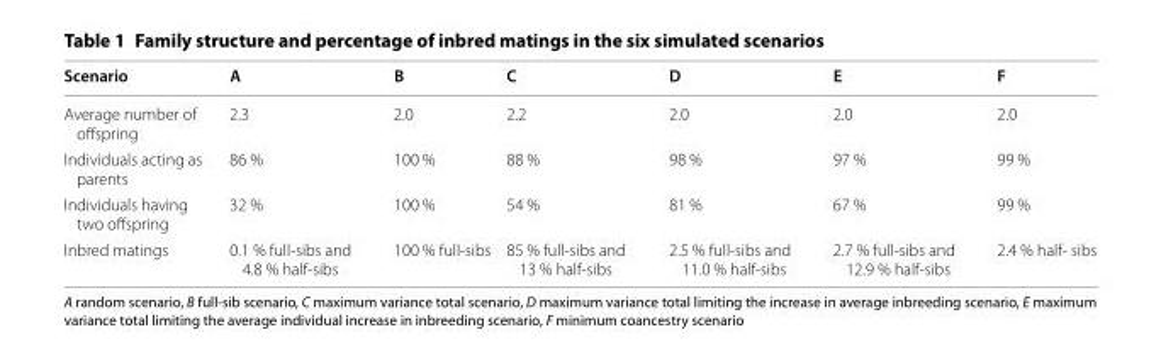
<table><thead><tr><td>Scenario</td><td>A</td><td>B</td><td>C</td><td>D</td><td>E</td><td>F</td></tr></thead><tbody><tr><td>Average number of offspring</td><td>2.3</td><td>2.0</td><td>2.2</td><td>2.0</td><td>2.0</td><td>2.0</td></tr><tr><td>Individuals acting as parents</td><td>86 %</td><td>100 %</td><td>88 %</td><td>98 %</td><td>97 %</td><td>99 %</td></tr><tr><td>Individuals having two offspring</td><td>32 %</td><td>100 %</td><td>54 %</td><td>81 %</td><td>67 %</td><td>99 %</td></tr><tr><td>Inbred matings</td><td>0.1 % full-sibs and 4.8 % half-sibs</td><td>100 % full-sibs</td><td>85 % full-sibs and 13 % half-sibs</td><td>2.5 % full-sibs and 11.0 % half-sibs</td><td>2.7 % full-sibs and 12.9 % half-sibs</td><td>2.4 % half- sibs</td></tr></tbody></table>